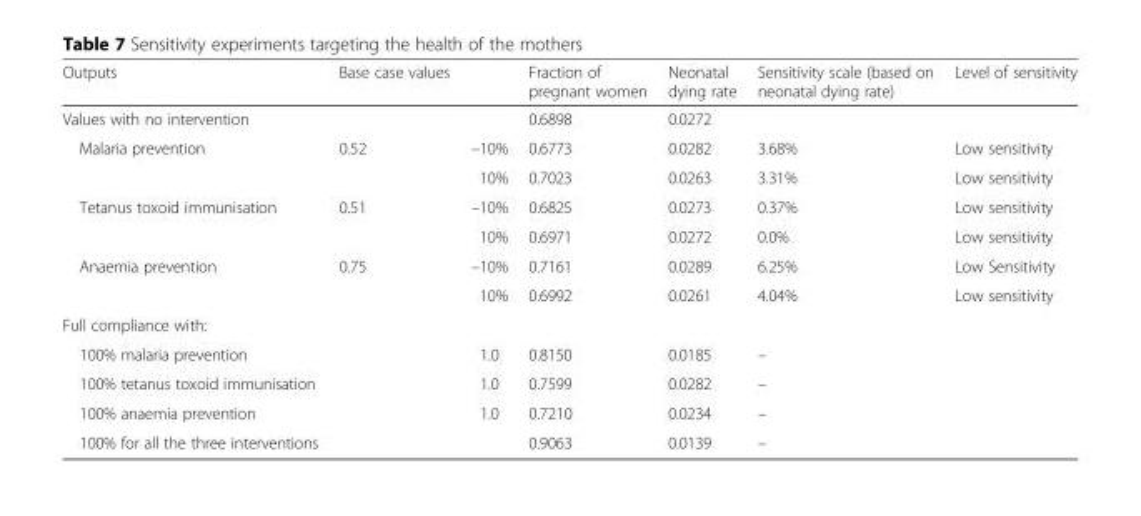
<table><thead><tr><td>Outputs</td><td>Base case values</td><td></td><td>Fraction of pregnant women</td><td>Neonatal dying rate</td><td>Sensitivity scale (based on neonatal dying rate)</td><td>Level of sensitivity</td></tr></thead><tbody><tr><td colspan="3">Values with no intervention</td><td>0.6898</td><td>0.0272</td><td></td><td></td></tr><tr><td rowspan="2">Malaria prevention</td><td rowspan="2">0.52</td><td>–10%</td><td>0.6773</td><td>0.0282</td><td>3.68%</td><td>Low sensitivity</td></tr><tr><td>10%</td><td>0.7023</td><td>0.0263</td><td>3.31%</td><td>Low sensitivity</td></tr><tr><td rowspan="2">Tetanus toxoid immunisation</td><td rowspan="2">0.51</td><td>–10%</td><td>0.6825</td><td>0.0273</td><td>0.37%</td><td>Low sensitivity</td></tr><tr><td>10%</td><td>0.6971</td><td>0.0272</td><td>0.0%</td><td>Low sensitivity</td></tr><tr><td rowspan="2">Anaemia prevention</td><td rowspan="2">0.75</td><td>–10%</td><td>0.7161</td><td>0.0289</td><td>6.25%</td><td>Low Sensitivity</td></tr><tr><td>10%</td><td>0.6992</td><td>0.0261</td><td>4.04%</td><td>Low sensitivity</td></tr><tr><td colspan="7">Full compliance with:</td></tr><tr><td>100% malaria prevention</td><td></td><td>1.0</td><td>0.8150</td><td>0.0185</td><td>–</td><td></td></tr><tr><td>100% tetanus toxoid immunisation</td><td></td><td>1.0</td><td>0.7599</td><td>0.0282</td><td>–</td><td></td></tr><tr><td>100% anaemia prevention</td><td></td><td>1.0</td><td>0.7210</td><td>0.0234</td><td>–</td><td></td></tr><tr><td>100% for all the three interventions</td><td></td><td></td><td>0.9063</td><td>0.0139</td><td>–</td><td></td></tr></tbody></table>